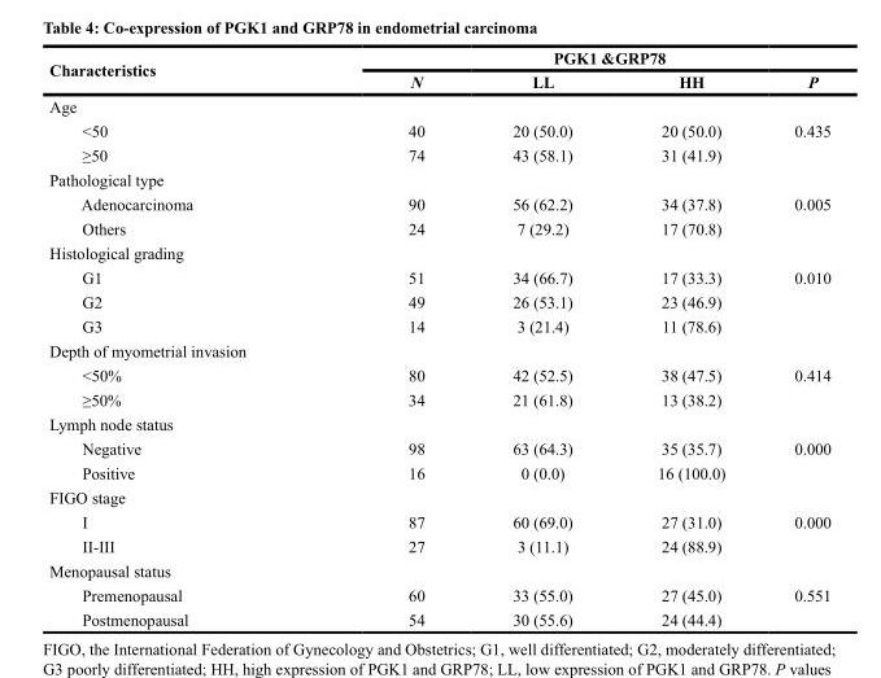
<table><thead><tr><td rowspan="2">Characteristics</td><td colspan="4">PGK1 &amp;GRP78</td></tr><tr><td>N</td><td>LL</td><td>HH</td><td>P</td></tr></thead><tbody><tr><td colspan="5">Age</td></tr><tr><td>&lt;50</td><td>40</td><td>20 (50.0)</td><td>20 (50.0)</td><td>0.435</td></tr><tr><td>≥50</td><td>74</td><td>43 (58.1)</td><td>31 (41.9)</td><td></td></tr><tr><td colspan="5">Pathological type</td></tr><tr><td>Adenocarcinoma</td><td>90</td><td>56 (62.2)</td><td>34 (37.8)</td><td>0.005</td></tr><tr><td>Others</td><td>24</td><td>7 (29.2)</td><td>17 (70.8)</td><td></td></tr><tr><td colspan="5">Histological grading</td></tr><tr><td>G1</td><td>51</td><td>34 (66.7)</td><td>17 (33.3)</td><td>0.010</td></tr><tr><td>G2</td><td>49</td><td>26 (53.1)</td><td>23 (46.9)</td><td></td></tr><tr><td>G3</td><td>14</td><td>3 (21.4)</td><td>11 (78.6)</td><td></td></tr><tr><td colspan="5">Depth of myometrial invasion</td></tr><tr><td>&lt;50%</td><td>80</td><td>42 (52.5)</td><td>38 (47.5)</td><td>0.414</td></tr><tr><td>≥50%</td><td>34</td><td>21 (61.8)</td><td>13 (38.2)</td><td></td></tr><tr><td colspan="5">Lymph node status</td></tr><tr><td>Negative</td><td>98</td><td>63 (64.3)</td><td>35 (35.7)</td><td>0.000</td></tr><tr><td>Positive</td><td>16</td><td>0 (0.0)</td><td>16 (100.0)</td><td></td></tr><tr><td colspan="5">FIGO stage</td></tr><tr><td>I</td><td>87</td><td>60 (69.0)</td><td>27 (31.0)</td><td>0.000</td></tr><tr><td>II-III</td><td>27</td><td>3 (11.1)</td><td>24 (88.9)</td><td></td></tr><tr><td colspan="5">Menopausal status</td></tr><tr><td>Premenopausal</td><td>60</td><td>33 (55.0)</td><td>27 (45.0)</td><td>0.551</td></tr><tr><td>Postmenopausal</td><td>54</td><td>30 (55.6)</td><td>24 (44.4)</td><td></td></tr></tbody></table>